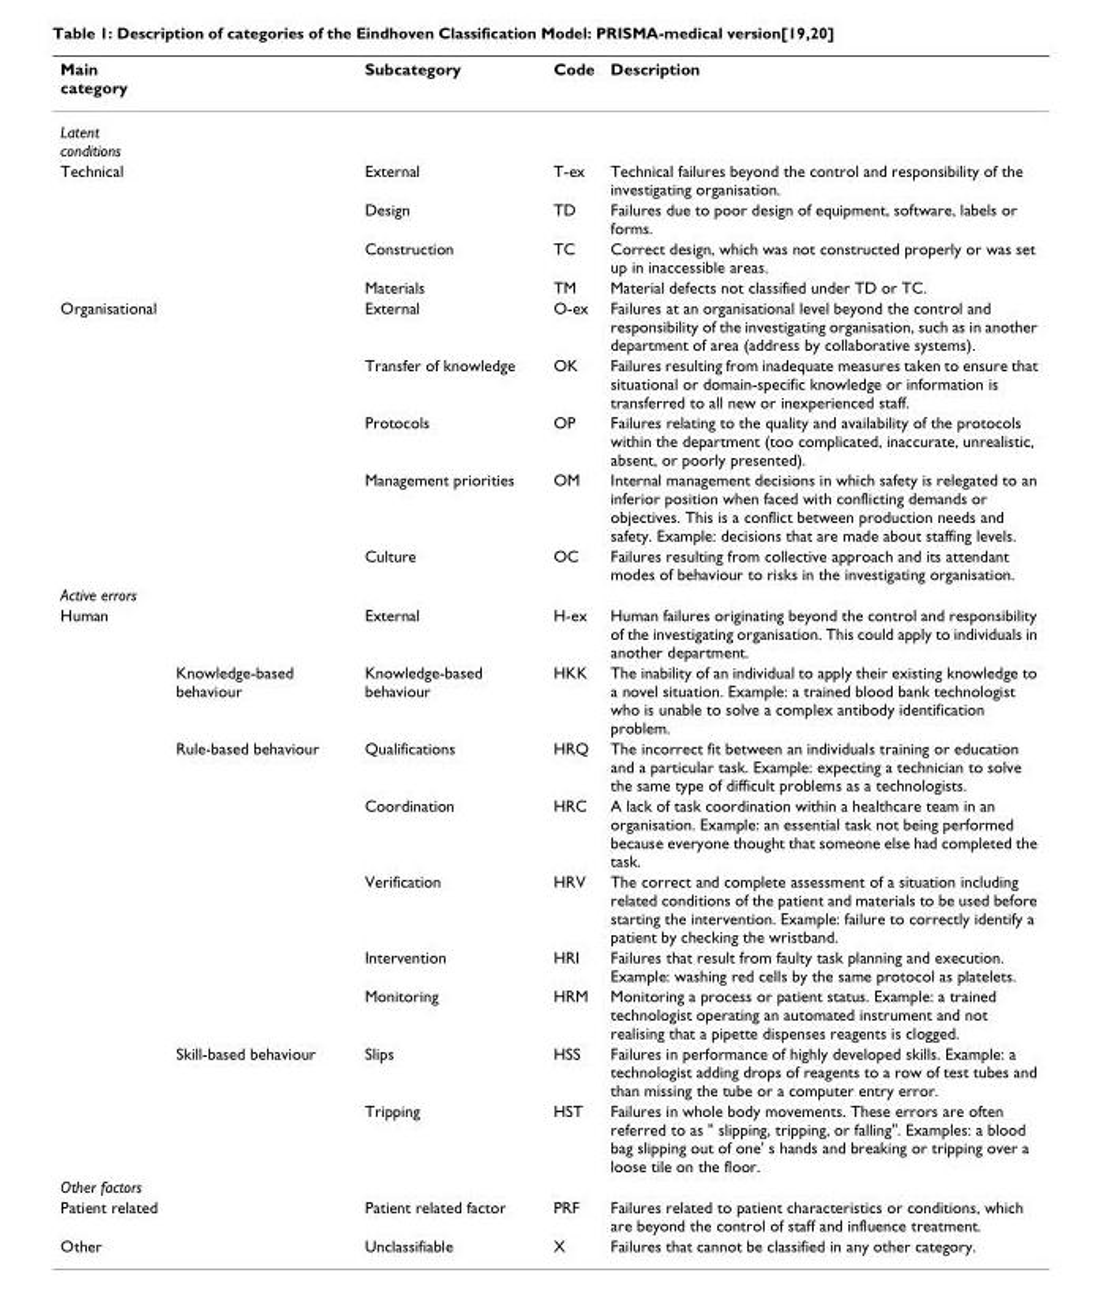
<table><thead><tr><td>Main category</td><td></td><td>Subcategory</td><td>Code</td><td>Description</td></tr></thead><tbody><tr><td colspan="5">Latent conditions</td></tr><tr><td rowspan="4">Technical</td><td></td><td>External</td><td>T-ex</td><td>Technical failures beyond the control and responsibility of the investigating organisation.</td></tr><tr><td></td><td>Design</td><td>TD</td><td>Failures due to poor design of equipment, software, labels or forms.</td></tr><tr><td></td><td>Construction</td><td>TC</td><td>Correct design, which was not constructed properly or was set up in inaccessible areas.</td></tr><tr><td></td><td>Materials</td><td>TM</td><td>Material defects not classified under TD or TC.</td></tr><tr><td rowspan="5">Organisational</td><td></td><td>External</td><td>O-ex</td><td>Failures at an organisational level beyond the control and responsibility of the investigating organisation, such as in another department of area (address by collaborative systems).</td></tr><tr><td></td><td>Transfer of knowledge</td><td>OK</td><td>Failures resulting from inadequate measures taken to ensure that situational or domain-specific knowledge or information is transferred to all new or inexperienced staff.</td></tr><tr><td></td><td>Protocols</td><td>OP</td><td>Failures relating to the quality and availability of the protocols within the department (too complicated, inaccurate, unrealistic, absent, or poorly presented).</td></tr><tr><td></td><td>Management priorities</td><td>OM</td><td>Internal management decisions in which safety is relegated to an inferior position when faced with conflicting demands or objectives. This is a conflict between production needs and safety. Example: decisions that are made about staffing levels.</td></tr><tr><td></td><td>Culture</td><td>OC</td><td>Failures resulting from collective approach and its attendant modes of behaviour to risks in the investigating organisation.</td></tr><tr><td colspan="5">Active errors</td></tr><tr><td rowspan="9">Human</td><td></td><td>External</td><td>H-ex</td><td>Human failures originating beyond the control and responsibility of the investigating organisation. This could apply to individuals in another department.</td></tr><tr><td>Knowledge-based behaviour</td><td>Knowledge-based behaviour</td><td>HKK</td><td>The inability of an individual to apply their existing knowledge to a novel situation. Example: a trained blood bank technologist who is unable to solve a complex antibody identification problem.</td></tr><tr><td>Rule-based behaviour</td><td>Qualifications</td><td>HRQ</td><td>The incorrect fit between an individuals training or education and a particular task. Example: expecting a technician to solve the same type of difficult problems as a technologists.</td></tr><tr><td></td><td>Coordination</td><td>HRC</td><td>A lack of task coordination within a healthcare team in an organisation. Example: an essential task not being performed because everyone thought that someone else had completed the task.</td></tr><tr><td></td><td>Verification</td><td>HRV</td><td>The correct and complete assessment of a situation including related conditions of the patient and materials to be used before starting the intervention. Example: failure to correctly identify a patient by checking the wristband.</td></tr><tr><td></td><td>Intervention</td><td>HRI</td><td>Failures that result from faulty task planning and execution. Example: washing red cells by the same protocol as platelets.</td></tr><tr><td></td><td>Monitoring</td><td>HRM</td><td>Monitoring a process or patient status. Example: a trained technologist operating an automated instrument and not realising that a pipette dispenses reagents is clogged.</td></tr><tr><td>Skill-based behaviour</td><td>Slips</td><td>HSS</td><td>Failures in performance of highly developed skills. Example: a technologist adding drops of reagents to a row of test tubes and than missing the tube or a computer entry error.</td></tr><tr><td></td><td>Tripping</td><td>HST</td><td>Failures in whole body movements. These errors are often referred to as &quot; slipping, tripping, or falling&quot;. Examples: a blood bag slipping out of one&#x27; s hands and breaking or tripping over a loose tile on the floor.</td></tr><tr><td colspan="5">Other factors</td></tr><tr><td>Patient related</td><td></td><td>Patient related factor</td><td>PRF</td><td>Failures related to patient characteristics or conditions, which are beyond the control of staff and influence treatment.</td></tr><tr><td>Other</td><td></td><td>Unclassifiable</td><td>X</td><td>Failures that cannot be classified in any other category.</td></tr></tbody></table>